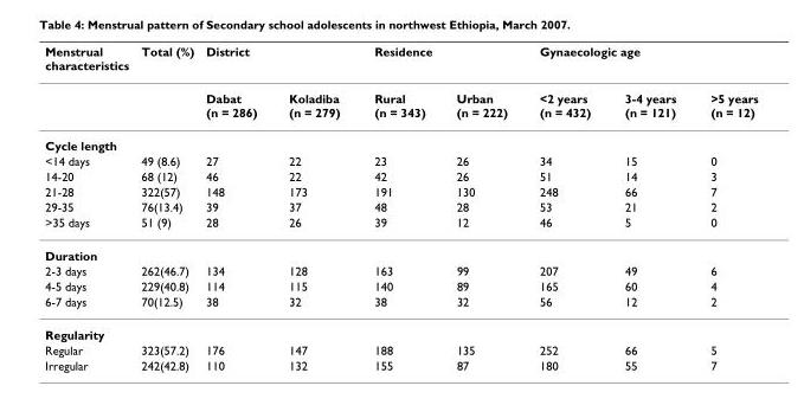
<table><thead><tr><td rowspan="2">Menstrual characteristics</td><td rowspan="2">Total (%)</td><td colspan="2">District</td><td colspan="2">Residence</td><td colspan="3">Gynaecologic age</td></tr><tr><td>Dabat (n = 286)</td><td>Koladiba (n = 279)</td><td>Rural (n = 343)</td><td>Urban (n = 222)</td><td>&lt;2 years (n = 432)</td><td>3-4 years (n = 121)</td><td>&gt;5 years (n = 12)</td></tr></thead><tbody><tr><td colspan="9">Cycle length</td></tr><tr><td>&lt;14 days</td><td>49 (8.6)</td><td>27</td><td>22</td><td>23</td><td>26</td><td>34</td><td>15</td><td>0</td></tr><tr><td>14-20</td><td>68 (12)</td><td>46</td><td>22</td><td>42</td><td>26</td><td>51</td><td>14</td><td>3</td></tr><tr><td>21-28</td><td>322(57)</td><td>148</td><td>173</td><td>191</td><td>130</td><td>248</td><td>66</td><td>7</td></tr><tr><td>29-35</td><td>76(13.4)</td><td>39</td><td>37</td><td>48</td><td>28</td><td>53</td><td>21</td><td>2</td></tr><tr><td>&gt;35 days</td><td>51 (9)</td><td>28</td><td>26</td><td>39</td><td>12</td><td>46</td><td>5</td><td>0</td></tr><tr><td colspan="9">Duration</td></tr><tr><td>2-3 days</td><td>262(46.7)</td><td>134</td><td>128</td><td>163</td><td>99</td><td>207</td><td>49</td><td>6</td></tr><tr><td>4-5 days</td><td>229(40.8)</td><td>114</td><td>115</td><td>140</td><td>89</td><td>165</td><td>60</td><td>4</td></tr><tr><td>6-7 days</td><td>70(12.5)</td><td>38</td><td>32</td><td>38</td><td>32</td><td>56</td><td>12</td><td>2</td></tr><tr><td colspan="9">Regularity</td></tr><tr><td>Regular</td><td>323(57.2)</td><td>176</td><td>147</td><td>188</td><td>135</td><td>252</td><td>66</td><td>5</td></tr><tr><td>Irregular</td><td>242(42.8)</td><td>110</td><td>132</td><td>155</td><td>87</td><td>180</td><td>55</td><td>7</td></tr></tbody></table>